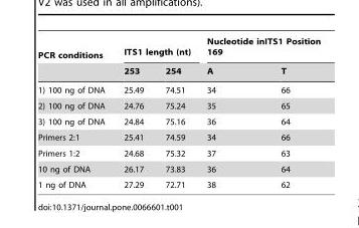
<table><thead><tr><td rowspan="2">PCR conditions</td><td colspan="2">ITS1 length (nt)</td><td colspan="2">Nucleotide inITS1 Position 169</td></tr><tr><td>253</td><td>254</td><td>A</td><td>T</td></tr></thead><tbody><tr><td>1) 100 ng of DNA</td><td>25.49</td><td>74.51</td><td>34</td><td>66</td></tr><tr><td>2) 100 ng of DNA</td><td>24.76</td><td>75.24</td><td>35</td><td>65</td></tr><tr><td>3) 100 ng of DNA</td><td>24.84</td><td>75.16</td><td>36</td><td>64</td></tr><tr><td>Primers 2:1</td><td>25.41</td><td>74.59</td><td>34</td><td>66</td></tr><tr><td>Primers 1:2</td><td>24.68</td><td>75.32</td><td>37</td><td>63</td></tr><tr><td>10 ng of DNA</td><td>26.17</td><td>73.83</td><td>36</td><td>64</td></tr><tr><td>1 ng of DNA</td><td>27.29</td><td>72.71</td><td>38</td><td>62</td></tr></tbody></table>